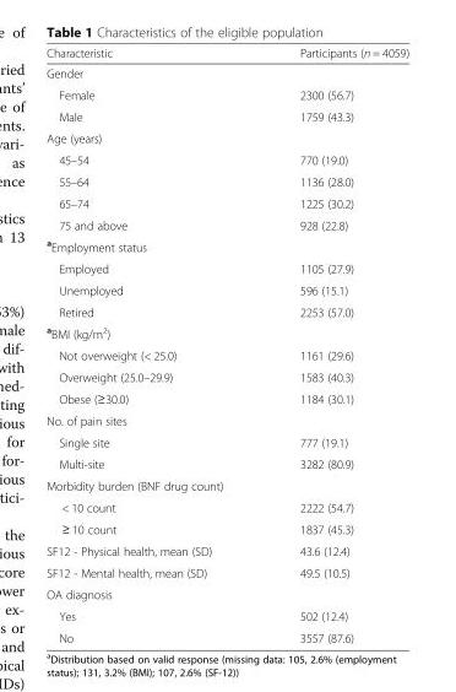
<table><thead><tr><td>Characteristic</td><td>Participants (n = 4059)</td></tr></thead><tbody><tr><td colspan="2">Gender</td></tr><tr><td>Female</td><td>2300 (56.7)</td></tr><tr><td>Male</td><td>1759 (43.3)</td></tr><tr><td colspan="2">Age (years)</td></tr><tr><td>45–54</td><td>770 (19.0)</td></tr><tr><td>55–64</td><td>1136 (28.0)</td></tr><tr><td>65–74</td><td>1225 (30.2)</td></tr><tr><td>75 and above</td><td>928 (22.8)</td></tr><tr><td colspan="2"><sup>a</sup>Employment status</td></tr><tr><td>Employed</td><td>1105 (27.9)</td></tr><tr><td>Unemployed</td><td>596 (15.1)</td></tr><tr><td>Retired</td><td>2253 (57.0)</td></tr><tr><td colspan="2"><sup>a</sup>BMI (kg/m<sup>2</sup>)</td></tr><tr><td>Not overweight (&lt; 25.0)</td><td>1161 (29.6)</td></tr><tr><td>Overweight (25.0–29.9)</td><td>1583 (40.3)</td></tr><tr><td>Obese (≥30.0)</td><td>1184 (30.1)</td></tr><tr><td colspan="2">No. of pain sites</td></tr><tr><td>Single site</td><td>777 (19.1)</td></tr><tr><td>Multi-site</td><td>3282 (80.9)</td></tr><tr><td colspan="2">Morbidity burden (BNF drug count)</td></tr><tr><td>&lt; 10 count</td><td>2222 (54.7)</td></tr><tr><td>≥ 10 count</td><td>1837 (45.3)</td></tr><tr><td>SF12 - Physical health, mean (SD)</td><td>43.6 (12.4)</td></tr><tr><td>SF12 - Mental health, mean (SD)</td><td>49.5 (10.5)</td></tr><tr><td colspan="2">OA diagnosis</td></tr><tr><td>Yes</td><td>502 (12.4)</td></tr><tr><td>No</td><td>3557 (87.6)</td></tr></tbody></table>